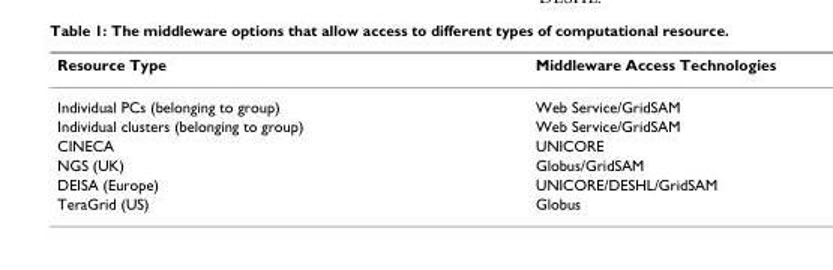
<table><thead><tr><td>Resource Type</td><td>Middleware Access Technologies</td></tr></thead><tbody><tr><td>Individual PCs (belonging to group)</td><td>Web Service/GridSAM</td></tr><tr><td>Individual clusters (belonging to group)</td><td>Web Service/GridSAM</td></tr><tr><td>CINECA</td><td>UNICORE</td></tr><tr><td>NGS (UK)</td><td>Globus/GridSAM</td></tr><tr><td>DEISA (Europe)</td><td>UNICORE/DESHL/GridSAM</td></tr><tr><td>TeraGrid (US)</td><td>Globus</td></tr></tbody></table>